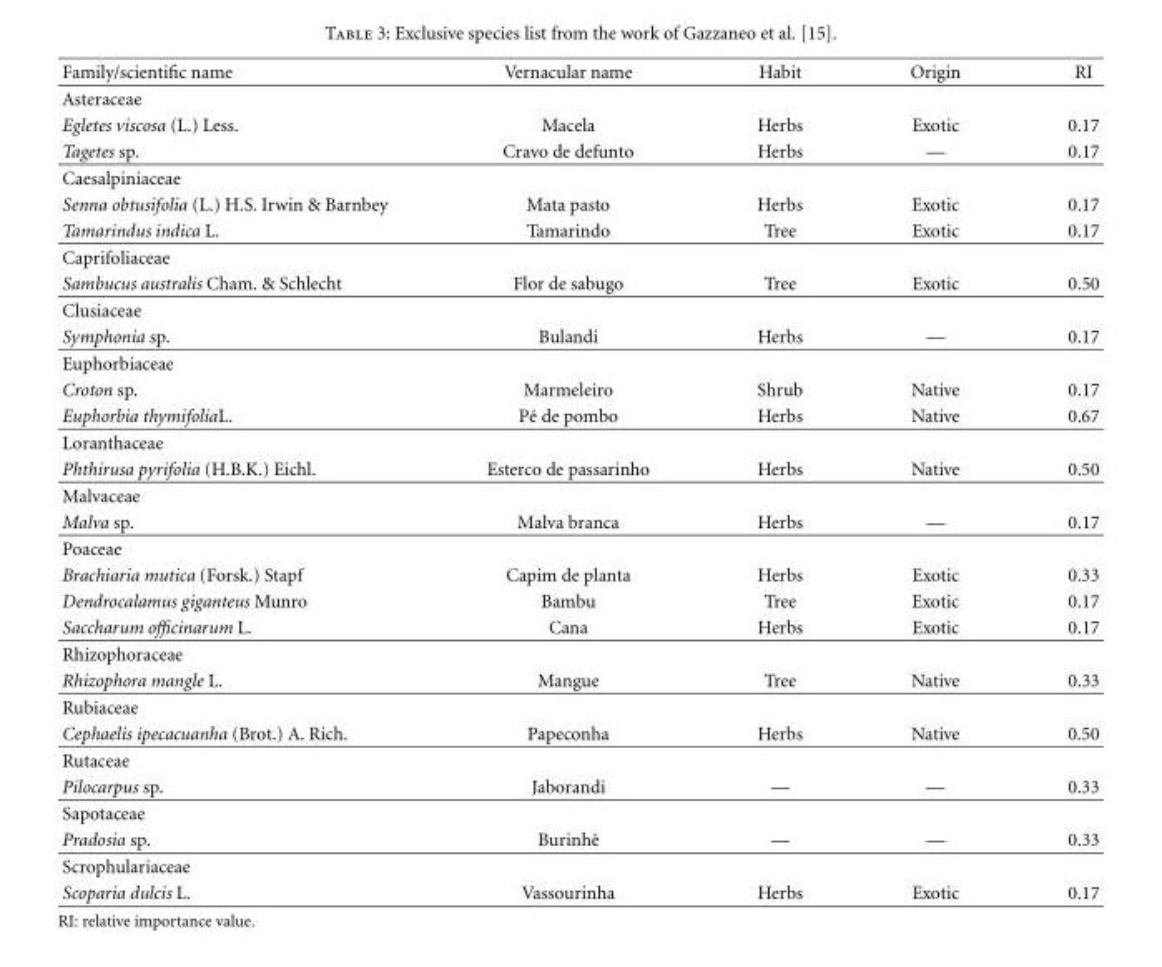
<table><thead><tr><td>Family/scientific name</td><td>Vernacular name</td><td>Habit</td><td>Origin</td><td>RI</td></tr></thead><tbody><tr><td colspan="5">Asteraceae</td></tr><tr><td>Egletes viscosa (L.) Less.</td><td>Macela</td><td>Herbs</td><td>Exotic</td><td>0.17</td></tr><tr><td>Tagetes sp.</td><td>Cravo de defunto</td><td>Herbs</td><td>—</td><td>0.17</td></tr><tr><td colspan="5">Caesalpiniaceae</td></tr><tr><td>Senna obtusifolia (L.) H.S. Irwin &amp; Barnbey</td><td>Mata pasto</td><td>Herbs</td><td>Exotic</td><td>0.17</td></tr><tr><td>Tamarindus indica L.</td><td>Tamarindo</td><td>Tree</td><td>Exotic</td><td>0.17</td></tr><tr><td colspan="5">Caprifoliaceae</td></tr><tr><td>Sambucus australis Cham. &amp; Schlecht</td><td>Flor de sabugo</td><td>Tree</td><td>Exotic</td><td>0.50</td></tr><tr><td colspan="5">Clusiaceae</td></tr><tr><td>Symphonia sp.</td><td>Bulandi</td><td>Herbs</td><td>—</td><td>0.17</td></tr><tr><td colspan="5">Euphorbiaceae</td></tr><tr><td>Croton sp.</td><td>Marmeleiro</td><td>Shrub</td><td>Native</td><td>0.17</td></tr><tr><td>Euphorbia thymifoliaL.</td><td>P´e de pombo</td><td>Herbs</td><td>Native</td><td>0.67</td></tr><tr><td colspan="5">Loranthaceae</td></tr><tr><td>Phthirusa pyrifolia (H.B.K.) Eichl.</td><td>Esterco de passarinho</td><td>Herbs</td><td>Native</td><td>0.50</td></tr><tr><td colspan="5">Malvaceae</td></tr><tr><td>Malva sp.</td><td>Malva branca</td><td>Herbs</td><td>—</td><td>0.17</td></tr><tr><td colspan="5">Poaceae</td></tr><tr><td>Brachiaria mutica (Forsk.) Stapf</td><td>Capim de planta</td><td>Herbs</td><td>Exotic</td><td>0.33</td></tr><tr><td>Dendrocalamus giganteus Munro</td><td>Bambu</td><td>Tree</td><td>Exotic</td><td>0.17</td></tr><tr><td>Saccharum officinarum L.</td><td>Cana</td><td>Herbs</td><td>Exotic</td><td>0.17</td></tr><tr><td colspan="5">Rhizophoraceae</td></tr><tr><td>Rhizophora mangle L.</td><td>Mangue</td><td>Tree</td><td>Native</td><td>0.33</td></tr><tr><td colspan="5">Rubiaceae</td></tr><tr><td>Cephaelis ipecacuanha (Brot.) A. Rich.</td><td>Papeconha</td><td>Herbs</td><td>Native</td><td>0.50</td></tr><tr><td colspan="5">Rutaceae</td></tr><tr><td>Pilocarpus sp.</td><td>Jaborandi</td><td>—</td><td>—</td><td>0.33</td></tr><tr><td colspan="5">Sapotaceae</td></tr><tr><td>Pradosia sp.</td><td>Burinhˆe</td><td>—</td><td>—</td><td>0.33</td></tr><tr><td colspan="5">Scrophulariaceae</td></tr><tr><td>Scoparia dulcis L.</td><td>Vassourinha</td><td>Herbs</td><td>Exotic</td><td>0.17</td></tr></tbody></table>